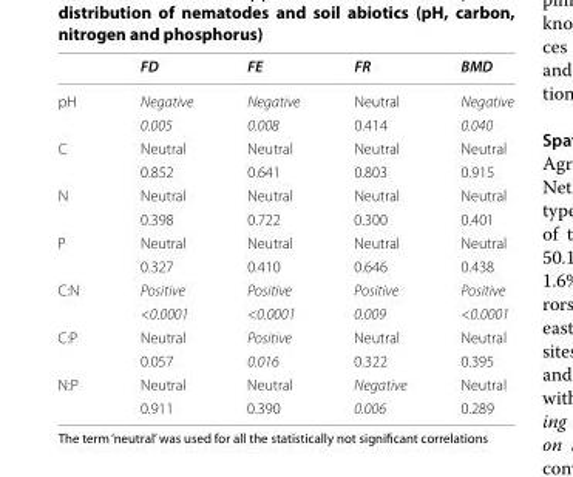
<table><thead><tr><td></td><td>FD</td><td>FE</td><td>FR</td><td>BMD</td></tr></thead><tbody><tr><td rowspan="2">pH</td><td>Negative</td><td>Negative</td><td>Neutral</td><td>Negative</td></tr><tr><td>0.005</td><td>0.008</td><td>0.414</td><td>0.040</td></tr><tr><td rowspan="2">C</td><td>Neutral</td><td>Neutral</td><td>Neutral</td><td>Neutral</td></tr><tr><td>0.852</td><td>0.641</td><td>0.803</td><td>0.915</td></tr><tr><td rowspan="2">N</td><td>Neutral</td><td>Neutral</td><td>Neutral</td><td>Neutral</td></tr><tr><td>0.398</td><td>0.722</td><td>0.300</td><td>0.401</td></tr><tr><td rowspan="2">P</td><td>Neutral</td><td>Neutral</td><td>Neutral</td><td>Neutral</td></tr><tr><td>0.327</td><td>0.410</td><td>0.646</td><td>0.438</td></tr><tr><td rowspan="2">C:N</td><td>Positive</td><td>Positive</td><td>Positive</td><td>Positive</td></tr><tr><td>&lt;0.0001</td><td>&lt;0.0001</td><td>0.009</td><td>&lt;0.0001</td></tr><tr><td rowspan="2">C:P</td><td>Neutral</td><td>Positive</td><td>Neutral</td><td>Neutral</td></tr><tr><td>0.057</td><td>0.016</td><td>0.322</td><td>0.395</td></tr><tr><td rowspan="2">N:P</td><td>Neutral</td><td>Neutral</td><td>Negative</td><td>Neutral</td></tr><tr><td>0.911</td><td>0.390</td><td>0.006</td><td>0.289</td></tr></tbody></table>